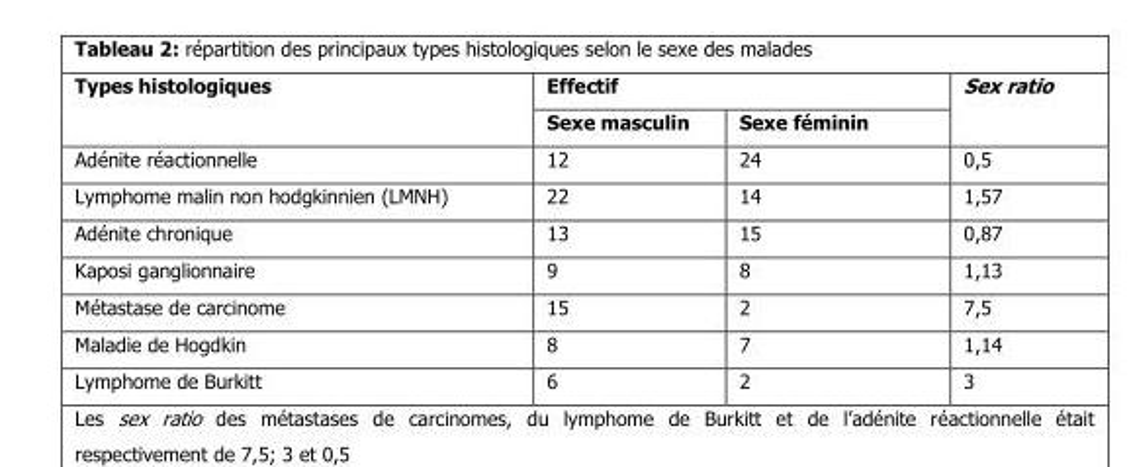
<table><thead><tr><td rowspan="2">Types histologiques</td><td colspan="2">Effectif</td><td rowspan="2">Sex ratio</td></tr><tr><td>Sexe masculin</td><td>Sexe féminin</td></tr></thead><tbody><tr><td>Adénite réactionnelle</td><td>12</td><td>24</td><td>0,5</td></tr><tr><td>Lymphome malin non hodgkinnien (LMNH)</td><td>22</td><td>14</td><td>1,57</td></tr><tr><td>Adénite chronique</td><td>13</td><td>15</td><td>0,87</td></tr><tr><td>Kaposi ganglionnaire</td><td>9</td><td>8</td><td>1,13</td></tr><tr><td>Métastase de carcinome</td><td>15</td><td>2</td><td>7,5</td></tr><tr><td>Maladie de Hogdkin</td><td>8</td><td>7</td><td>1,14</td></tr><tr><td>Lymphome de Burkitt</td><td>6</td><td>2</td><td>3</td></tr></tbody></table>